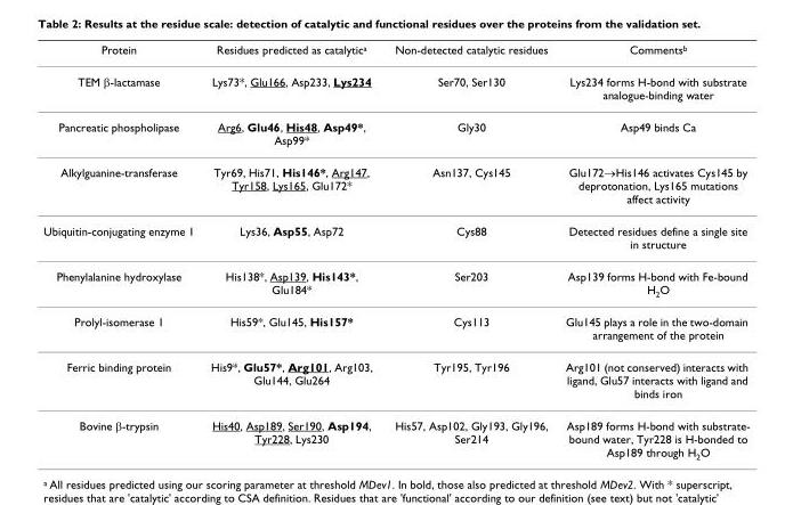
<table><thead><tr><td>Protein</td><td>Residues predicted as catalytic<sup>a</sup></td><td>Non-detected catalytic residues</td><td>Comments<sup>b</sup></td></tr></thead><tbody><tr><td>TEM β-lactamase</td><td>Lys73*, Glu166, Asp233, Lys234</td><td>Ser70, Ser130</td><td>Lys234 forms H-bond with substrate analogue-binding water</td></tr><tr><td>Pancreatic phospholipase</td><td>Arg6, Glu46, His48, Asp49*, Asp99*</td><td>Gly30</td><td>Asp49 binds Ca</td></tr><tr><td>Alkylguanine-transferase</td><td>Tyr69, His71, His146*, Arg147, Tyr158, Lys165, Glu172*</td><td>Asn137, Cys145</td><td>Glu172→His146 activates Cys145 by deprotonation, Lys165 mutations affect activity</td></tr><tr><td>Ubiquitin-conjugating enzyme 1</td><td>Lys36, Asp55, Asp72</td><td>Cys88</td><td>Detected residues define a single site in structure</td></tr><tr><td>Phenylalanine hydroxylase</td><td>His138*, Asp139, His143*, Glu184*</td><td>Ser203</td><td>Asp139 forms H-bond with Fe-bound H<sub>2</sub>O</td></tr><tr><td>Prolyl-isomerase 1</td><td>His59*, Glu145, His157*</td><td>Cys113</td><td>Glu145 plays a role in the two-domain arrangement of the protein</td></tr><tr><td>Ferric binding protein</td><td>His9*, Glu57*, Arg101, Arg103, Glu144, Glu264</td><td>Tyr195, Tyr196</td><td>Arg101 (not conserved) interacts with ligand, Glu57 interacts with ligand and binds iron</td></tr><tr><td>Bovine β-trypsin</td><td>His40, Asp189, Ser190, Asp194, Tyr228, Lys230</td><td>His57, Asp102, Gly193, Gly196, Ser214</td><td>Asp189 forms H-bond with substrate- bound water, Tyr228 is H-bonded to Asp189 through H<sub>2</sub>O</td></tr></tbody></table>